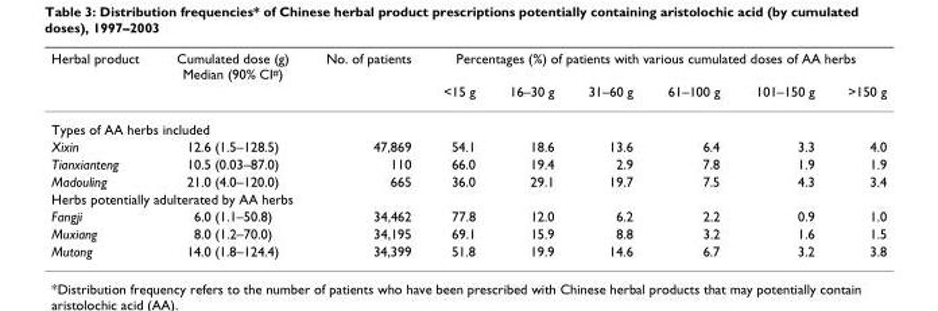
<table><thead><tr><td rowspan="2">Herbal product</td><td rowspan="2">Cumulated dose (g) Median (90% CI<sup>#</sup>)</td><td rowspan="2">No. of patients</td><td colspan="6">Percentages (%) of patients with various cumulated doses of AA herbs</td></tr><tr><td>&lt;15 g</td><td>16–30 g</td><td>31–60 g</td><td>61–100 g</td><td>101–150 g</td><td>&gt;150 g</td></tr></thead><tbody><tr><td colspan="9">Types of AA herbs included</td></tr><tr><td>Xixin</td><td>12.6 (1.5–128.5)</td><td>47,869</td><td>54.1</td><td>18.6</td><td>13.6</td><td>6.4</td><td>3.3</td><td>4.0</td></tr><tr><td>Tianxianteng</td><td>10.5 (0.03–87.0)</td><td>110</td><td>66.0</td><td>19.4</td><td>2.9</td><td>7.8</td><td>1.9</td><td>1.9</td></tr><tr><td>Madouling</td><td>21.0 (4.0–120.0)</td><td>665</td><td>36.0</td><td>29.1</td><td>19.7</td><td>7.5</td><td>4.3</td><td>3.4</td></tr><tr><td colspan="9">Herbs potentially adulterated by AA herbs</td></tr><tr><td>Fangji</td><td>6.0 (1.1–50.8)</td><td>34,462</td><td>77.8</td><td>12.0</td><td>6.2</td><td>2.2</td><td>0.9</td><td>1.0</td></tr><tr><td>Muxiang</td><td>8.0 (1.2–70.0)</td><td>34,195</td><td>69.1</td><td>15.9</td><td>8.8</td><td>3.2</td><td>1.6</td><td>1.5</td></tr><tr><td>Mutong</td><td>14.0 (1.8–124.4)</td><td>34,399</td><td>51.8</td><td>19.9</td><td>14.6</td><td>6.7</td><td>3.2</td><td>3.8</td></tr></tbody></table>